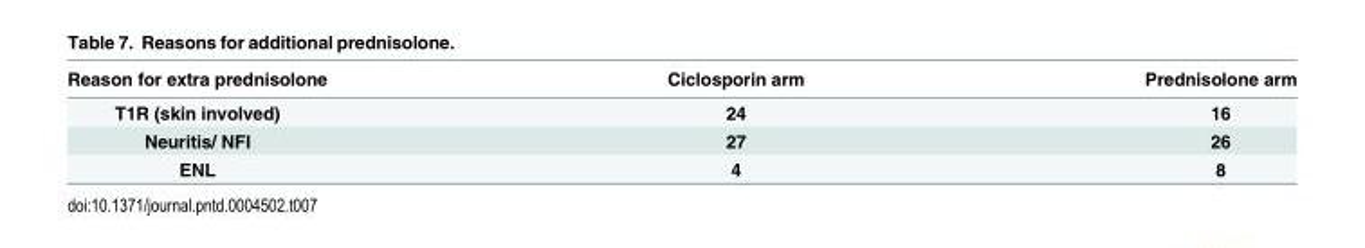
<table><thead><tr><td>Reason for extra prednisolone</td><td>Ciclosporin arm</td><td>Prednisolone arm</td></tr></thead><tbody><tr><td>T1R (skin involved)</td><td>24</td><td>16</td></tr><tr><td>Neuritis/ NFI</td><td>27</td><td>26</td></tr><tr><td>ENL</td><td>4</td><td>8</td></tr></tbody></table>